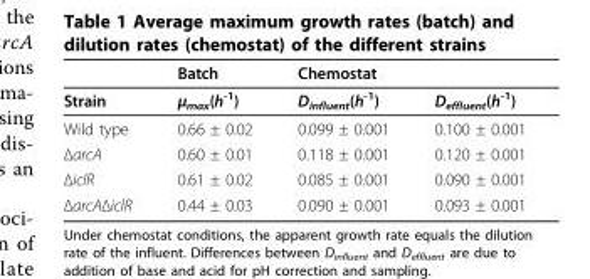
<table><thead><tr><td></td><td>Batch</td><td>Chemostat</td><td></td></tr></thead><tbody><tr><td>Strain</td><td>μ<sub>max</sub>(h<sup>-1</sup>)</td><td>D<sub>influent</sub>(h<sup>-1</sup>)</td><td>D<sub>effluent</sub>(h<sup>-1</sup>)</td></tr><tr><td>Wild type</td><td>0.66 ± 0.02</td><td>0.099 ± 0.001</td><td>0.100 ± 0.001</td></tr><tr><td>ΔarcA</td><td>0.60 ± 0.01</td><td>0.118 ± 0.001</td><td>0.120 ± 0.001</td></tr><tr><td>ΔiclR</td><td>0.61 ± 0.02</td><td>0.085 ± 0.001</td><td>0.090 ± 0.001</td></tr><tr><td>ΔarcAΔiclR</td><td>0.44 ± 0.03</td><td>0.090 ± 0.001</td><td>0.093 ± 0.001</td></tr></tbody></table>